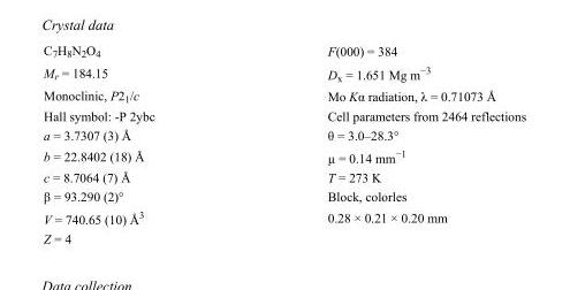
<table><tbody><tr><td>C<sub>7</sub>H<sub>8</sub>N<sub>2</sub>O<sub>4</sub></td><td>F(000) = 384</td></tr><tr><td>M<sub>r</sub> = 184.15</td><td>D<sub>x</sub> = 1.651 Mg m<sup>−3</sup></td></tr><tr><td>Monoclinic, P2<sub>1</sub>/c</td><td>Mo Kα radiation, λ = 0.71073 Å</td></tr><tr><td>Hall symbol: -P 2ybc</td><td>Cell parameters from 2464 reflections</td></tr><tr><td>a = 3.7307 (3) Å</td><td>θ = 3.0–28.3°</td></tr><tr><td>b = 22.8402 (18) Å</td><td>µ = 0.14 mm<sup>−1</sup></td></tr><tr><td>c = 8.7064 (7) Å</td><td>T = 273 K</td></tr><tr><td>β = 93.290 (2)°</td><td>Block, colorles</td></tr><tr><td>V = 740.65 (10) Å<sup>3</sup></td><td>0.28 × 0.21 × 0.20 mm</td></tr><tr><td>Z = 4</td><td></td></tr></tbody></table>